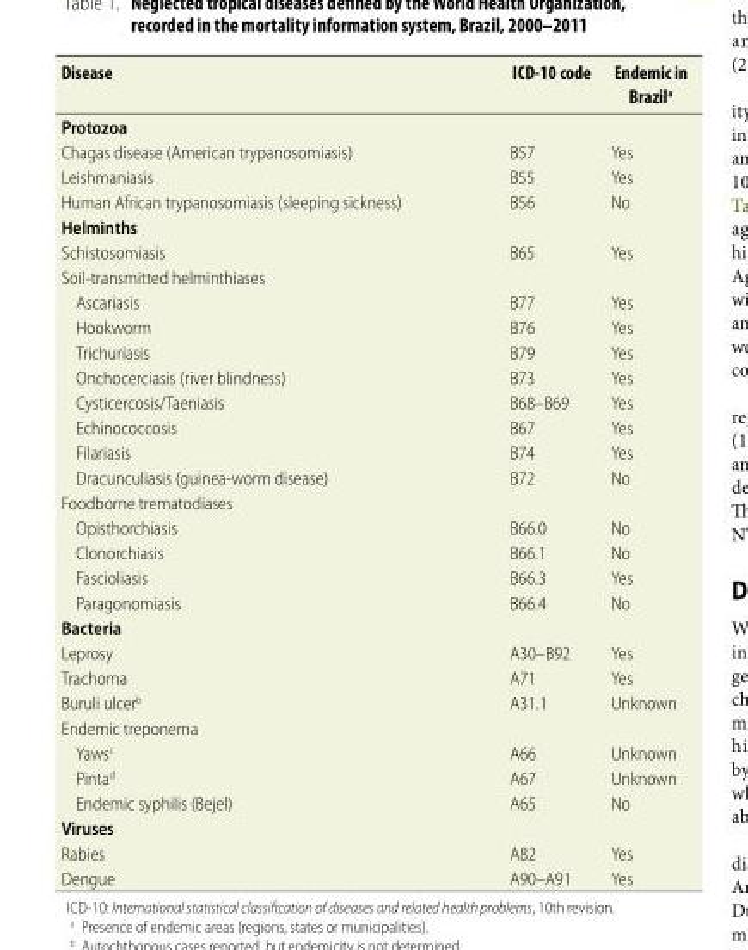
<table><thead><tr><td>Disease</td><td>ICD-10 code</td><td>Endemic in Brazil<sup>a</sup></td></tr></thead><tbody><tr><td colspan="3">Protozoa</td></tr><tr><td>Chagas disease (American trypanosomiasis)</td><td>B57</td><td>Yes</td></tr><tr><td>Leishmaniasis</td><td>B55</td><td>Yes</td></tr><tr><td>Human African trypanosomiasis (sleeping sickness)</td><td>B56</td><td>No</td></tr><tr><td colspan="3">Helminths</td></tr><tr><td>Schistosomiasis</td><td>B65</td><td>Yes</td></tr><tr><td colspan="3">Soil-transmitted helminthiases</td></tr><tr><td>Ascariasis</td><td>B77</td><td>Yes</td></tr><tr><td>Hookworm</td><td>B76</td><td>Yes</td></tr><tr><td>Trichuriasis</td><td>B79</td><td>Yes</td></tr><tr><td>Onchocerciasis (river blindness)</td><td>B73</td><td>Yes</td></tr><tr><td>Cysticercosis/Taeniasis</td><td>B68–B69</td><td>Yes</td></tr><tr><td>Echinococcosis</td><td>B67</td><td>Yes</td></tr><tr><td>Filariasis</td><td>B74</td><td>Yes</td></tr><tr><td>Dracunculiasis (guinea-worm disease)</td><td>B72</td><td>No</td></tr><tr><td colspan="3">Foodborne trematodiases</td></tr><tr><td>Opisthorchiasis</td><td>B66.0</td><td>No</td></tr><tr><td>Clonorchiasis</td><td>B66.1</td><td>No</td></tr><tr><td>Fascioliasis</td><td>B66.3</td><td>Yes</td></tr><tr><td>Paragonomiasis</td><td>B66.4</td><td>No</td></tr><tr><td colspan="3">Bacteria</td></tr><tr><td>Leprosy</td><td>A30–B92</td><td>Yes</td></tr><tr><td>Trachoma</td><td>A71</td><td>Yes</td></tr><tr><td>Buruli ulcer<sup>b</sup></td><td>A31.1</td><td>Unknown</td></tr><tr><td colspan="3">Endemic treponema</td></tr><tr><td>Yaws<sup>c</sup></td><td>A66</td><td>Unknown</td></tr><tr><td>Pinta<sup>d</sup></td><td>A67</td><td>Unknown</td></tr><tr><td>Endemic syphilis (Bejel)</td><td>A65</td><td>No</td></tr><tr><td colspan="3">Viruses</td></tr><tr><td>Rabies</td><td>A82</td><td>Yes</td></tr><tr><td>Dengue</td><td>A90–A91</td><td>Yes</td></tr></tbody></table>